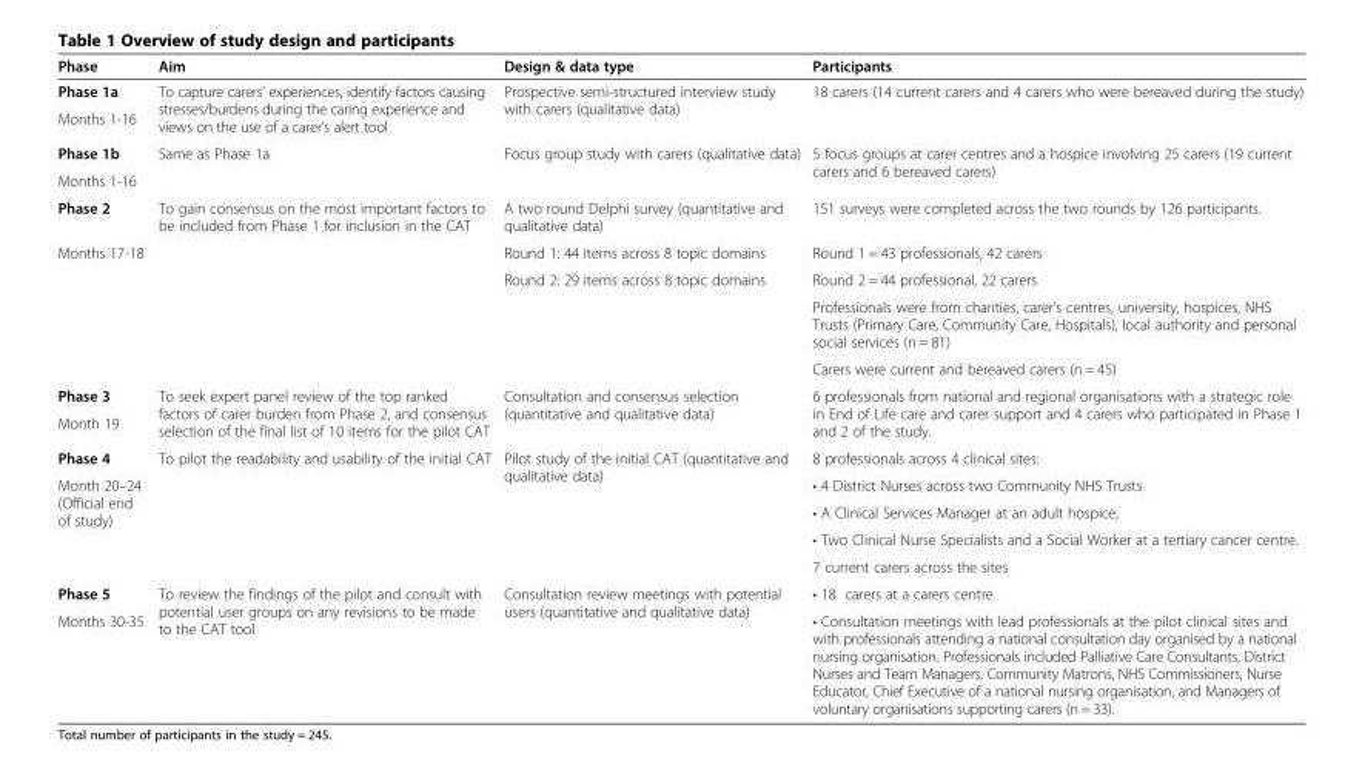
<table><thead><tr><td>Phase</td><td>Aim</td><td>Design &amp; data type</td><td>Participants</td></tr></thead><tbody><tr><td>Phase 1a</td><td rowspan="2">To capture carers’ experiences, identify factors causing stresses/burdens during the caring experience and views on the use of a carer’s alert tool</td><td rowspan="2">Prospective semi-structured interview study with carers (qualitative data)</td><td rowspan="2">18 carers (14 current carers and 4 carers who were bereaved during the study)</td></tr><tr><td>Months 1-16</td></tr><tr><td>Phase 1b</td><td rowspan="2">Same as Phase 1a</td><td rowspan="2">Focus group study with carers (qualitative data)</td><td rowspan="2">5 focus groups at carer centres and a hospice involving 25 carers (19 current carers and 6 bereaved carers)</td></tr><tr><td>Months 1-16</td></tr><tr><td>Phase 2</td><td rowspan="5">To gain consensus on the most important factors to be included from Phase 1 for inclusion in the CAT</td><td>A two round Delphi survey (quantitative and qualitative data)</td><td>151 surveys were completed across the two rounds by 126 participants.</td></tr><tr><td rowspan="4">Months 17-18</td><td>Round 1: 44 items across 8 topic domains</td><td>Round 1 = 43 professionals, 42 carers</td></tr><tr><td rowspan="3">Round 2: 29 items across 8 topic domains</td><td>Round 2 = 44 professional, 22 carers</td></tr><tr><td>Professionals were from charities, carer’s centres, university, hospices, NHS Trusts (Primary Care, Community Care, Hospitals), local authority and personal social services (n = 81)</td></tr><tr><td>Carers were current and bereaved carers (n = 45)</td></tr><tr><td>Phase 3</td><td rowspan="2">To seek expert panel review of the top ranked factors of carer burden from Phase 2, and consensus selection of the final list of 10 items for the pilot CAT</td><td rowspan="2">Consultation and consensus selection (quantitative and qualitative data)</td><td rowspan="2">6 professionals from national and regional organisations with a strategic role in End of Life care and carer support and 4 carers who participated in Phase 1 and 2 of the study.</td></tr><tr><td>Month 19</td></tr><tr><td>Phase 4</td><td rowspan="5">To pilot the readability and usability of the initial CAT</td><td rowspan="5">Pilot study of the initial CAT (quantitative and qualitative data)</td><td>8 professionals across 4 clinical sites:</td></tr><tr><td rowspan="4">Month 20–24 (Official end of study)</td><td>• 4 District Nurses across two Community NHS Trusts</td></tr><tr><td>• A Clinical Services Manager at an adult hospice,</td></tr><tr><td>• Two Clinical Nurse Specialists and a Social Worker at a tertiary cancer centre.</td></tr><tr><td>7 current carers across the sites</td></tr><tr><td>Phase 5</td><td rowspan="2">To review the findings of the pilot and consult with potential user groups on any revisions to be made to the CAT tool</td><td rowspan="2">Consultation review meetings with potential users (quantitative and qualitative data)</td><td>• 18 carers at a carers centre</td></tr><tr><td>Months 30-35</td><td>• Consultation meetings with lead professionals at the pilot clinical sites and with professionals attending a national consultation day organised by a national nursing organisation. Professionals included Palliative Care Consultants, District Nurses and Team Managers, Community Matrons, NHS Commissioners, Nurse Educator, Chief Executive of a national nursing organisation, and Managers of voluntary organisations supporting carers (n = 33).</td></tr></tbody></table>